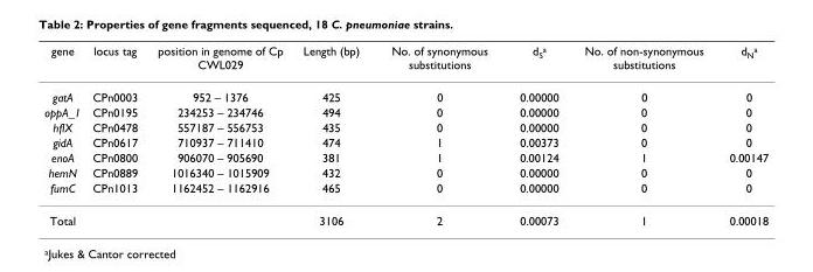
<table><thead><tr><td>gene</td><td>locus tag</td><td>position in genome of Cp CWL029</td><td>Length (bp)</td><td>No. of synonymous substitutions</td><td>d<sub>S</sub><sup>a</sup></td><td>No. of non-synonymous substitutions</td><td>d<sub>N</sub><sup>a</sup></td></tr></thead><tbody><tr><td>gatA</td><td>CPn0003</td><td>952 – 1376</td><td>425</td><td>0</td><td>0.00000</td><td>0</td><td>0</td></tr><tr><td>oppA_1</td><td>CPn0195</td><td>234253 – 234746</td><td>494</td><td>0</td><td>0.00000</td><td>0</td><td>0</td></tr><tr><td>hflX</td><td>CPn0478</td><td>557187 – 556753</td><td>435</td><td>0</td><td>0.00000</td><td>0</td><td>0</td></tr><tr><td>gidA</td><td>CPn0617</td><td>710937 – 711410</td><td>474</td><td>1</td><td>0.00373</td><td>0</td><td>0</td></tr><tr><td>enoA</td><td>CPn0800</td><td>906070 – 905690</td><td>381</td><td>1</td><td>0.00124</td><td>1</td><td>0.00147</td></tr><tr><td>hemN</td><td>CPn0889</td><td>1016340 – 1015909</td><td>432</td><td>0</td><td>0.00000</td><td>0</td><td>0</td></tr><tr><td>fumC</td><td>CPn1013</td><td>1162452 – 1162916</td><td>465</td><td>0</td><td>0.00000</td><td>0</td><td>0</td></tr><tr><td>Total</td><td></td><td></td><td>3106</td><td>2</td><td>0.00073</td><td>1</td><td>0.00018</td></tr></tbody></table>